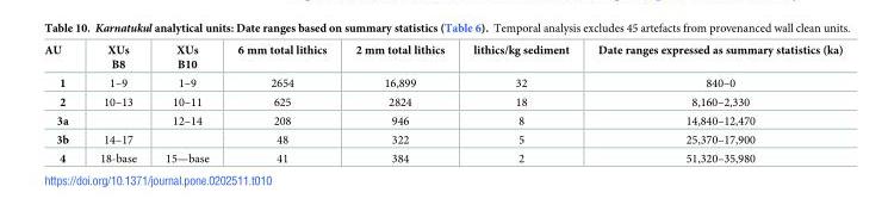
<table><thead><tr><td>AU</td><td>XUs B8</td><td>XUs B10</td><td>6 mm total lithics</td><td>2 mm total lithics</td><td>lithics/kg sediment</td><td>Date ranges expressed as summary statistics (ka)</td></tr></thead><tbody><tr><td>1</td><td>1–9</td><td>1–9</td><td>2654</td><td>16,899</td><td>32</td><td>840–0</td></tr><tr><td>2</td><td>10–13</td><td>10–11</td><td>625</td><td>2824</td><td>18</td><td>8,160–2,330</td></tr><tr><td>3a</td><td></td><td>12–14</td><td>208</td><td>946</td><td>8</td><td>14,840–12,470</td></tr><tr><td>3b</td><td>14–17</td><td></td><td>48</td><td>322</td><td>5</td><td>25,370–17,900</td></tr><tr><td>4</td><td>18-base</td><td>15—base</td><td>41</td><td>384</td><td>2</td><td>51,320–35,980</td></tr></tbody></table>